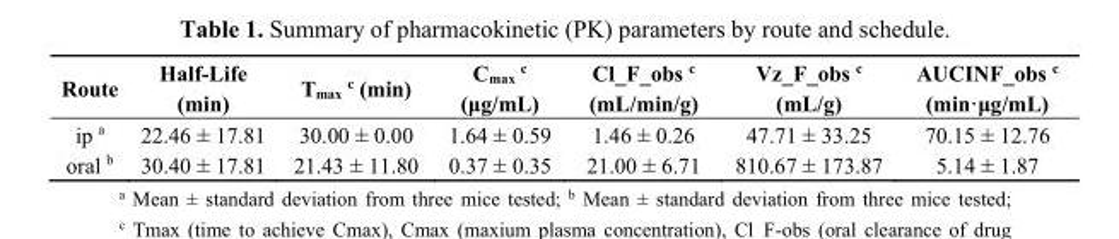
<table><thead><tr><td>Route</td><td>Half-Life (min)</td><td>T<sub>max</sub> <sup>c</sup> (min)</td><td>C<sub>max</sub> <sup>c</sup> (μg/mL)</td><td>Cl_F_obs <sup>c</sup> (mL/min/g)</td><td>Vz_F_obs <sup>c</sup> (mL/g)</td><td>AUCINF_obs <sup>c</sup> (min·μg/mL)</td></tr></thead><tbody><tr><td>ip <sup>a</sup></td><td>22.46 ± 17.81</td><td>30.00 ± 0.00</td><td>1.64 ± 0.59</td><td>1.46 ± 0.26</td><td>47.71 ± 33.25</td><td>70.15 ± 12.76</td></tr><tr><td>oral <sup>b</sup></td><td>30.40 ± 17.81</td><td>21.43 ± 11.80</td><td>0.37 ± 0.35</td><td>21.00 ± 6.71</td><td>810.67 ± 173.87</td><td>5.14 ± 1.87</td></tr></tbody></table>